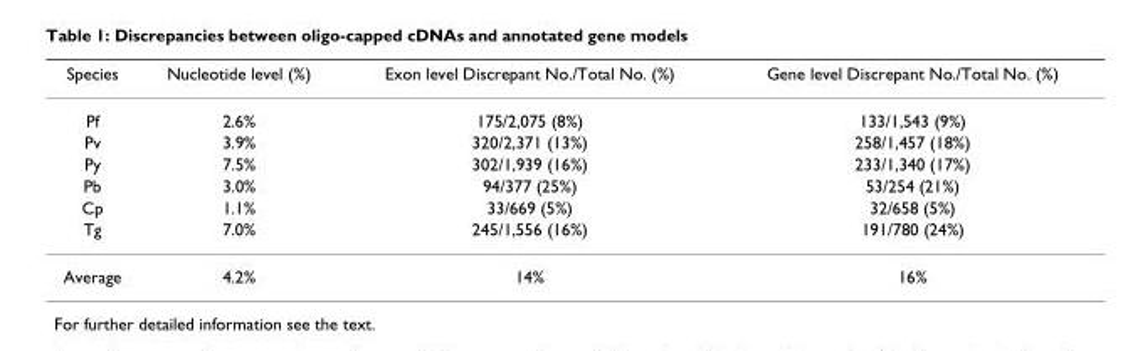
<table><thead><tr><td>Species</td><td>Nucleotide level (%)</td><td>Exon level Discrepant No./Total No. (%)</td><td>Gene level Discrepant No./Total No. (%)</td></tr></thead><tbody><tr><td>Pf</td><td>2.6%</td><td>175/2,075 (8%)</td><td>133/1,543 (9%)</td></tr><tr><td>Pv</td><td>3.9%</td><td>320/2,371 (13%)</td><td>258/1,457 (18%)</td></tr><tr><td>Py</td><td>7.5%</td><td>302/1,939 (16%)</td><td>233/1,340 (17%)</td></tr><tr><td>Pb</td><td>3.0%</td><td>94/377 (25%)</td><td>53/254 (21%)</td></tr><tr><td>Cp</td><td>1.1%</td><td>33/669 (5%)</td><td>32/658 (5%)</td></tr><tr><td>Tg</td><td>7.0%</td><td>245/1,556 (16%)</td><td>191/780 (24%)</td></tr><tr><td>Average</td><td>4.2%</td><td>14%</td><td>16%</td></tr></tbody></table>